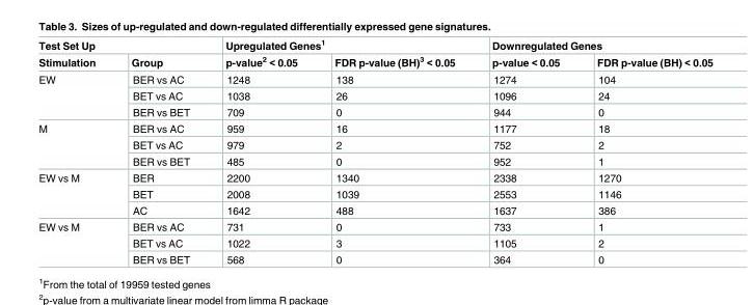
<table><thead><tr><td colspan="2">Test Set Up</td><td colspan="2">Upregulated Genes<sup>1</sup></td><td colspan="2">Downregulated Genes</td></tr><tr><td>Stimulation</td><td>Group</td><td>p-value<sup>2</sup> &lt; 0.05</td><td>FDR p-value (BH)<sup>3</sup> &lt; 0.05</td><td>p-value &lt; 0.05</td><td>FDR p-value (BH) &lt; 0.05</td></tr></thead><tbody><tr><td rowspan="3">EW</td><td>BER vs AC</td><td>1248</td><td>138</td><td>1274</td><td>104</td></tr><tr><td>BET vs AC</td><td>1038</td><td>26</td><td>1096</td><td>24</td></tr><tr><td>BER vs BET</td><td>709</td><td>0</td><td>944</td><td>0</td></tr><tr><td rowspan="3">M</td><td>BER vs AC</td><td>959</td><td>16</td><td>1177</td><td>18</td></tr><tr><td>BET vs AC</td><td>979</td><td>2</td><td>752</td><td>2</td></tr><tr><td>BER vs BET</td><td>485</td><td>0</td><td>952</td><td>1</td></tr><tr><td rowspan="3">EW vs M</td><td>BER</td><td>2200</td><td>1340</td><td>2338</td><td>1270</td></tr><tr><td>BET</td><td>2008</td><td>1039</td><td>2553</td><td>1146</td></tr><tr><td>AC</td><td>1642</td><td>488</td><td>1637</td><td>386</td></tr><tr><td rowspan="3">EW vs M</td><td>BER vs AC</td><td>731</td><td>0</td><td>733</td><td>1</td></tr><tr><td>BET vs AC</td><td>1022</td><td>3</td><td>1105</td><td>2</td></tr><tr><td>BER vs BET</td><td>568</td><td>0</td><td>364</td><td>0</td></tr></tbody></table>